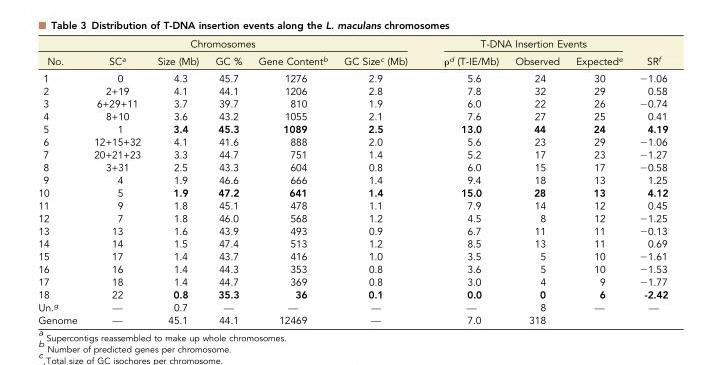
<table><thead><tr><td colspan="6">Chromosomes</td><td colspan="3">T-DNA Insertion Events</td><td rowspan="2">SR<sup>f</sup></td></tr><tr><td>No.</td><td>SC<sup>a</sup></td><td>Size (Mb)</td><td>GC %</td><td>Gene Content<sup>b</sup></td><td>GC Size<sup>c</sup> (Mb)</td><td>ρ<sup>d</sup> (T-IE/Mb)</td><td>Observed</td><td>Expected<sup>e</sup></td></tr></thead><tbody><tr><td>1</td><td>0</td><td>4.3</td><td>45.7</td><td>1276</td><td>2.9</td><td>5.6</td><td>24</td><td>30</td><td>−1.06</td></tr><tr><td>2</td><td>2+19</td><td>4.1</td><td>44.1</td><td>1206</td><td>2.8</td><td>7.8</td><td>32</td><td>29</td><td>0.58</td></tr><tr><td>3</td><td>6+29+11</td><td>3.7</td><td>39.7</td><td>810</td><td>1.9</td><td>6.0</td><td>22</td><td>26</td><td>−0.74</td></tr><tr><td>4</td><td>8+10</td><td>3.6</td><td>43.2</td><td>1055</td><td>2.1</td><td>7.6</td><td>27</td><td>25</td><td>0.41</td></tr><tr><td>5</td><td>1</td><td>3.4</td><td>45.3</td><td>1089</td><td>2.5</td><td>13.0</td><td>44</td><td>24</td><td>4.19</td></tr><tr><td>6</td><td>12+15+32</td><td>4.1</td><td>41.6</td><td>888</td><td>2.0</td><td>5.6</td><td>23</td><td>29</td><td>−1.06</td></tr><tr><td>7</td><td>20+21+23</td><td>3.3</td><td>44.7</td><td>751</td><td>1.4</td><td>5.2</td><td>17</td><td>23</td><td>−1.27</td></tr><tr><td>8</td><td>3+31</td><td>2.5</td><td>43.3</td><td>604</td><td>0.8</td><td>6.0</td><td>15</td><td>17</td><td>−0.58</td></tr><tr><td>9</td><td>4</td><td>1.9</td><td>46.6</td><td>666</td><td>1.4</td><td>9.4</td><td>18</td><td>13</td><td>1.25</td></tr><tr><td>10</td><td>5</td><td>1.9</td><td>47.2</td><td>641</td><td>1.4</td><td>15.0</td><td>28</td><td>13</td><td>4.12</td></tr><tr><td>11</td><td>9</td><td>1.8</td><td>45.1</td><td>478</td><td>1.1</td><td>7.9</td><td>14</td><td>12</td><td>0.45</td></tr><tr><td>12</td><td>7</td><td>1.8</td><td>46.0</td><td>568</td><td>1.2</td><td>4.5</td><td>8</td><td>12</td><td>−1.25</td></tr><tr><td>13</td><td>13</td><td>1.6</td><td>43.9</td><td>493</td><td>0.9</td><td>6.7</td><td>11</td><td>11</td><td>−0.13</td></tr><tr><td>14</td><td>14</td><td>1.5</td><td>47.4</td><td>513</td><td>1.2</td><td>8.5</td><td>13</td><td>11</td><td>0.69</td></tr><tr><td>15</td><td>17</td><td>1.4</td><td>43.7</td><td>416</td><td>1.0</td><td>3.5</td><td>5</td><td>10</td><td>−1.61</td></tr><tr><td>16</td><td>16</td><td>1.4</td><td>44.3</td><td>353</td><td>0.8</td><td>3.6</td><td>5</td><td>10</td><td>−1.53</td></tr><tr><td>17</td><td>18</td><td>1.4</td><td>44.7</td><td>369</td><td>0.8</td><td>3.0</td><td>4</td><td>9</td><td>−1.77</td></tr><tr><td>18</td><td>22</td><td>0.8</td><td>35.3</td><td>36</td><td>0.1</td><td>0.0</td><td>0</td><td>6</td><td>-2.42</td></tr><tr><td>Un.<sup>g</sup></td><td>—</td><td>0.7</td><td>—</td><td>—</td><td>—</td><td>—</td><td>8</td><td>—</td><td>—</td></tr><tr><td>Genome</td><td>—</td><td>45.1</td><td>44.1</td><td>12469</td><td>—</td><td>7.0</td><td>318</td><td></td><td></td></tr></tbody></table>